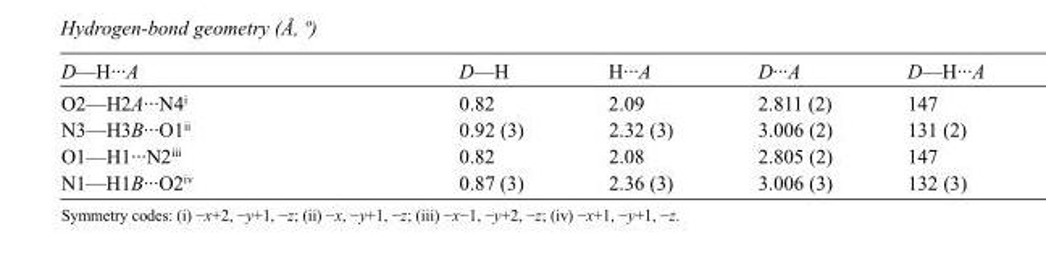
<table><tbody><tr><td>D—H···A</td><td>D—H</td><td>H···A</td><td>D···A</td><td>D—H···A</td></tr><tr><td>O2—H2A···N4<sup>i</sup></td><td>0.82</td><td>2.09</td><td>2.811 (2)</td><td>147</td></tr><tr><td>N3—H3B···O1<sup>ii</sup></td><td>0.92 (3)</td><td>2.32 (3)</td><td>3.006 (2)</td><td>131 (2)</td></tr><tr><td>O1—H1···N2<sup>iii</sup></td><td>0.82</td><td>2.08</td><td>2.805 (2)</td><td>147</td></tr><tr><td>N1—H1B···O2<sup>iv</sup></td><td>0.87 (3)</td><td>2.36 (3)</td><td>3.006 (3)</td><td>132 (3)</td></tr></tbody></table>